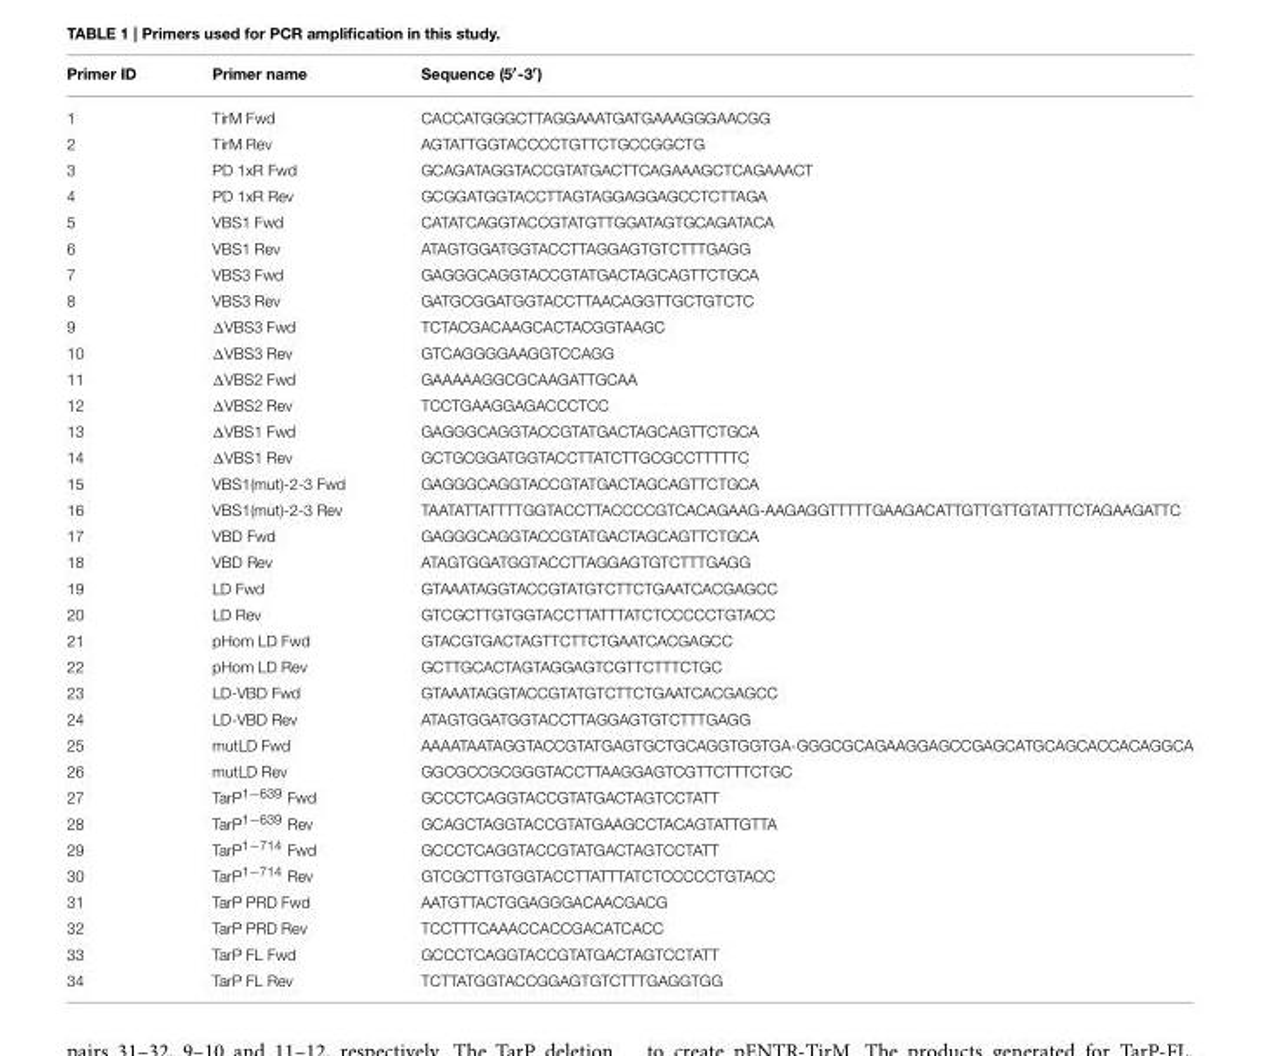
<table><thead><tr><td>Primer ID</td><td>Primer name</td><td>Sequence (5′-3′)</td></tr></thead><tbody><tr><td>1</td><td>TirM Fwd</td><td>CACCATGGGCTTAGGAAATGATGAAAGGGAACGG</td></tr><tr><td>2</td><td>TirM Rev</td><td>AGTATTGGTACCCCTGTTCTGCCGGCTG</td></tr><tr><td>3</td><td>PD 1xR Fwd</td><td>GCAGATAGGTACCGTATGACTTCAGAAAGCTCAGAAACT</td></tr><tr><td>4</td><td>PD 1xR Rev</td><td>GCGGATGGTACCTTAGTAGGAGGAGCCTCTTAGA</td></tr><tr><td>5</td><td>VBS1 Fwd</td><td>CATATCAGGTACCGTATGTTGGATAGTGCAGATACA</td></tr><tr><td>6</td><td>VBS1 Rev</td><td>ATAGTGGATGGTACCTTAGGAGTGTCTTTGAGG</td></tr><tr><td>7</td><td>VBS3 Fwd</td><td>GAGGGCAGGTACCGTATGACTAGCAGTTCTGCA</td></tr><tr><td>8</td><td>VBS3 Rev</td><td>GATGCGGATGGTACCTTAACAGGTTGCTGTCTC</td></tr><tr><td>9</td><td>ΔVBS3 Fwd</td><td>TCTACGACAAGCACTACGGTAAGC</td></tr><tr><td>10</td><td>ΔVBS3 Rev</td><td>GTCAGGGGAAGGTCCAGG</td></tr><tr><td>11</td><td>ΔVBS2 Fwd</td><td>GAAAAAGGCGCAAGATTGCAA</td></tr><tr><td>12</td><td>ΔVBS2 Rev</td><td>TCCTGAAGGAGACCCTCC</td></tr><tr><td>13</td><td>ΔVBS1 Fwd</td><td>GAGGGCAGGTACCGTATGACTAGCAGTTCTGCA</td></tr><tr><td>14</td><td>ΔVBS1 Rev</td><td>GCTGCGGATGGTACCTTATCTTGCGCCTTTTTC</td></tr><tr><td>15</td><td>VBS1(mut)-2-3 Fwd</td><td>GAGGGCAGGTACCGTATGACTAGCAGTTCTGCA</td></tr><tr><td>16</td><td>VBS1(mut)-2-3 Rev</td><td>TAATATTATTTTGGTACCTTACCCCGTCACAGAAG-AAGAGGTTTTTGAAGACATTGTTGTTGTATTTCTAGAAGATTC</td></tr><tr><td>17</td><td>VBD Fwd</td><td>GAGGGCAGGTACCGTATGACTAGCAGTTCTGCA</td></tr><tr><td>18</td><td>VBD Rev</td><td>ATAGTGGATGGTACCTTAGGAGTGTCTTTGAGG</td></tr><tr><td>19</td><td>LD Fwd</td><td>GTAAATAGGTACCGTATGTCTTCTGAATCACGAGCC</td></tr><tr><td>20</td><td>LD Rev</td><td>GTCGCTTGTGGTACCTTATTTATCTCCCCCTGTACC</td></tr><tr><td>21</td><td>pHom LD Fwd</td><td>GTACGTGACTAGTTCTTCTGAATCACGAGCC</td></tr><tr><td>22</td><td>pHom LD Rev</td><td>GCTTGCACTAGTAGGAGTCGTTCTTTCTGC</td></tr><tr><td>23</td><td>LD-VBD Fwd</td><td>GTAAATAGGTACCGTATGTCTTCTGAATCACGAGCC</td></tr><tr><td>24</td><td>LD-VBD Rev</td><td>ATAGTGGATGGTACCTTAGGAGTGTCTTTGAGG</td></tr><tr><td>25</td><td>mutLD Fwd</td><td>AAAATAATAGGTACCGTATGAGTGCTGCAGGTGGTGA-GGGCGCAGAAGGAGCCGAGCATGCAGCACCACAGGCA</td></tr><tr><td>26</td><td>mutLD Rev</td><td>GGCGCCGCGGGTACCTTAAGGAGTCGTTCTTTCTGC</td></tr><tr><td>27</td><td>TarP<sup>1−639</sup> Fwd</td><td>GCCCTCAGGTACCGTATGACTAGTCCTATT</td></tr><tr><td>28</td><td>TarP<sup>1−639</sup> Rev</td><td>GCAGCTAGGTACCGTATGAAGCCTACAGTATTGTTA</td></tr><tr><td>29</td><td>TarP<sup>1−714</sup> Fwd</td><td>GCCCTCAGGTACCGTATGACTAGTCCTATT</td></tr><tr><td>30</td><td>TarP<sup>1−714</sup> Rev</td><td>GTCGCTTGTGGTACCTTATTTATCTCCCCCTGTACC</td></tr><tr><td>31</td><td>TarP PRD Fwd</td><td>AATGTTACTGGAGGGACAACGACG</td></tr><tr><td>32</td><td>TarP PRD Rev</td><td>TCCTTTCAAACCACCGACATCACC</td></tr><tr><td>33</td><td>TarP FL Fwd</td><td>GCCCTCAGGTACCGTATGACTAGTCCTATT</td></tr><tr><td>34</td><td>TarP FL Rev</td><td>TCTTATGGTACCGGAGTGTCTTTGAGGTGG</td></tr></tbody></table>